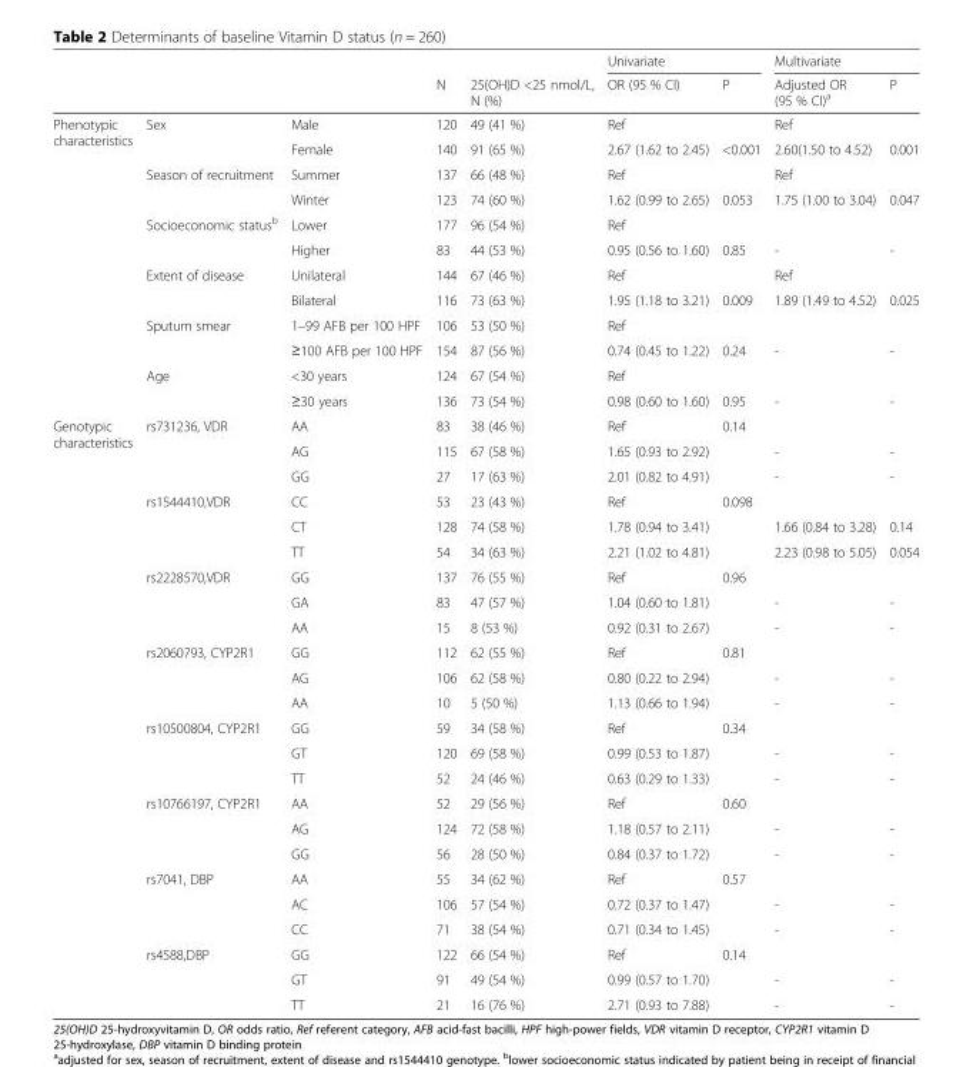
<table><thead><tr><td rowspan="2"></td><td rowspan="2"></td><td rowspan="2"></td><td rowspan="2">N</td><td rowspan="2">25(OH)D &lt;25 nmol/L, N (%)</td><td colspan="2">Univariate</td><td colspan="2">Multivariate</td></tr><tr><td>OR (95 % CI)</td><td>P</td><td>Adjusted OR (95 % CI)<sup>a</sup></td><td>P</td></tr></thead><tbody><tr><td rowspan="12">Phenotypic characteristics</td><td>Sex</td><td>Male</td><td>120</td><td>49 (41 %)</td><td>Ref</td><td></td><td>Ref</td><td></td></tr><tr><td></td><td>Female</td><td>140</td><td>91 (65 %)</td><td>2.67 (1.62 to 2.45)</td><td>&lt;0.001</td><td>2.60(1.50 to 4.52)</td><td>0.001</td></tr><tr><td>Season of recruitment</td><td>Summer</td><td>137</td><td>66 (48 %)</td><td>Ref</td><td></td><td>Ref</td><td></td></tr><tr><td></td><td>Winter</td><td>123</td><td>74 (60 %)</td><td>1.62 (0.99 to 2.65)</td><td>0.053</td><td>1.75 (1.00 to 3.04)</td><td>0.047</td></tr><tr><td>Socioeconomic status<sup>b</sup></td><td>Lower</td><td>177</td><td>96 (54 %)</td><td>Ref</td><td></td><td></td><td></td></tr><tr><td></td><td>Higher</td><td>83</td><td>44 (53 %)</td><td>0.95 (0.56 to 1.60)</td><td>0.85</td><td>-</td><td>-</td></tr><tr><td>Extent of disease</td><td>Unilateral</td><td>144</td><td>67 (46 %)</td><td>Ref</td><td></td><td>Ref</td><td></td></tr><tr><td></td><td>Bilateral</td><td>116</td><td>73 (63 %)</td><td>1.95 (1.18 to 3.21)</td><td>0.009</td><td>1.89 (1.49 to 4.52)</td><td>0.025</td></tr><tr><td>Sputum smear</td><td>1–99 AFB per 100 HPF</td><td>106</td><td>53 (50 %)</td><td>Ref</td><td></td><td></td><td></td></tr><tr><td></td><td>≥100 AFB per 100 HPF</td><td>154</td><td>87 (56 %)</td><td>0.74 (0.45 to 1.22)</td><td>0.24</td><td>-</td><td>-</td></tr><tr><td>Age</td><td>&lt;30 years</td><td>124</td><td>67 (54 %)</td><td>Ref</td><td></td><td></td><td></td></tr><tr><td></td><td>≥30 years</td><td>136</td><td>73 (54 %)</td><td>0.98 (0.60 to 1.60)</td><td>0.95</td><td>-</td><td>-</td></tr><tr><td rowspan="24">Genotypic characteristics</td><td>rs731236, VDR</td><td>AA</td><td>83</td><td>38 (46 %)</td><td>Ref</td><td>0.14</td><td></td><td></td></tr><tr><td></td><td>AG</td><td>115</td><td>67 (58 %)</td><td>1.65 (0.93 to 2.92)</td><td></td><td>-</td><td>-</td></tr><tr><td></td><td>GG</td><td>27</td><td>17 (63 %)</td><td>2.01 (0.82 to 4.91)</td><td></td><td>-</td><td>-</td></tr><tr><td>rs1544410,VDR</td><td>CC</td><td>53</td><td>23 (43 %)</td><td>Ref</td><td>0.098</td><td></td><td></td></tr><tr><td></td><td>CT</td><td>128</td><td>74 (58 %)</td><td>1.78 (0.94 to 3.41)</td><td></td><td>1.66 (0.84 to 3.28)</td><td>0.14</td></tr><tr><td></td><td>TT</td><td>54</td><td>34 (63 %)</td><td>2.21 (1.02 to 4.81)</td><td></td><td>2.23 (0.98 to 5.05)</td><td>0.054</td></tr><tr><td>rs2228570,VDR</td><td>GG</td><td>137</td><td>76 (55 %)</td><td>Ref</td><td>0.96</td><td></td><td></td></tr><tr><td></td><td>GA</td><td>83</td><td>47 (57 %)</td><td>1.04 (0.60 to 1.81)</td><td></td><td>-</td><td>-</td></tr><tr><td></td><td>AA</td><td>15</td><td>8 (53 %)</td><td>0.92 (0.31 to 2.67)</td><td></td><td>-</td><td>-</td></tr><tr><td>rs2060793, CYP2R1</td><td>GG</td><td>112</td><td>62 (55 %)</td><td>Ref</td><td>0.81</td><td></td><td></td></tr><tr><td></td><td>AG</td><td>106</td><td>62 (58 %)</td><td>0.80 (0.22 to 2.94)</td><td></td><td>-</td><td>-</td></tr><tr><td></td><td>AA</td><td>10</td><td>5 (50 %)</td><td>1.13 (0.66 to 1.94)</td><td></td><td>-</td><td>-</td></tr><tr><td>rs10500804, CYP2R1</td><td>GG</td><td>59</td><td>34 (58 %)</td><td>Ref</td><td>0.34</td><td></td><td></td></tr><tr><td></td><td>GT</td><td>120</td><td>69 (58 %)</td><td>0.99 (0.53 to 1.87)</td><td></td><td>-</td><td>-</td></tr><tr><td></td><td>TT</td><td>52</td><td>24 (46 %)</td><td>0.63 (0.29 to 1.33)</td><td></td><td>-</td><td>-</td></tr><tr><td>rs10766197, CYP2R1</td><td>AA</td><td>52</td><td>29 (56 %)</td><td>Ref</td><td>0.60</td><td></td><td></td></tr><tr><td></td><td>AG</td><td>124</td><td>72 (58 %)</td><td>1.18 (0.57 to 2.11)</td><td></td><td>-</td><td>-</td></tr><tr><td></td><td>GG</td><td>56</td><td>28 (50 %)</td><td>0.84 (0.37 to 1.72)</td><td></td><td>-</td><td>-</td></tr><tr><td>rs7041, DBP</td><td>AA</td><td>55</td><td>34 (62 %)</td><td>Ref</td><td>0.57</td><td></td><td></td></tr><tr><td></td><td>AC</td><td>106</td><td>57 (54 %)</td><td>0.72 (0.37 to 1.47)</td><td></td><td>-</td><td>-</td></tr><tr><td></td><td>CC</td><td>71</td><td>38 (54 %)</td><td>0.71 (0.34 to 1.45)</td><td></td><td>-</td><td>-</td></tr><tr><td>rs4588,DBP</td><td>GG</td><td>122</td><td>66 (54 %)</td><td>Ref</td><td>0.14</td><td></td><td></td></tr><tr><td></td><td>GT</td><td>91</td><td>49 (54 %)</td><td>0.99 (0.57 to 1.70)</td><td></td><td>-</td><td>-</td></tr><tr><td></td><td>TT</td><td>21</td><td>16 (76 %)</td><td>2.71 (0.93 to 7.88)</td><td></td><td>-</td><td>-</td></tr></tbody></table>